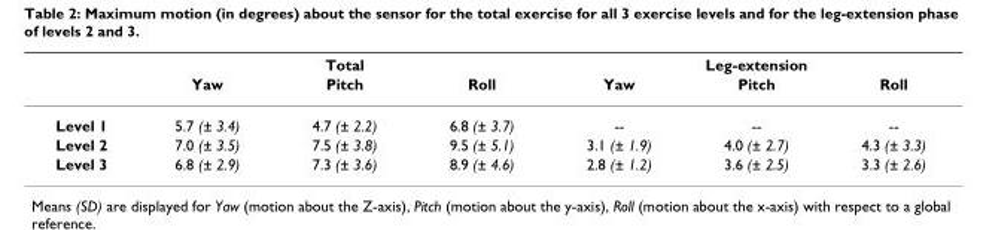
<table><thead><tr><td rowspan="2"></td><td colspan="3">Total</td><td colspan="3">Leg-extension</td></tr><tr><td>Yaw</td><td>Pitch</td><td>Roll</td><td>Yaw</td><td>Pitch</td><td>Roll</td></tr></thead><tbody><tr><td>Level 1</td><td>5.7 (± 3.4)</td><td>4.7 (± 2.2)</td><td>6.8 (± 3.7)</td><td>--</td><td>--</td><td>--</td></tr><tr><td>Level 2</td><td>7.0 (± 3.5)</td><td>7.5 (± 3.8)</td><td>9.5 (± 5.1)</td><td>3.1 (± 1.9)</td><td>4.0 (± 2.7)</td><td>4.3 (± 3.3)</td></tr><tr><td>Level 3</td><td>6.8 (± 2.9)</td><td>7.3 (± 3.6)</td><td>8.9 (± 4.6)</td><td>2.8 (± 1.2)</td><td>3.6 (± 2.5)</td><td>3.3 (± 2.6)</td></tr></tbody></table>